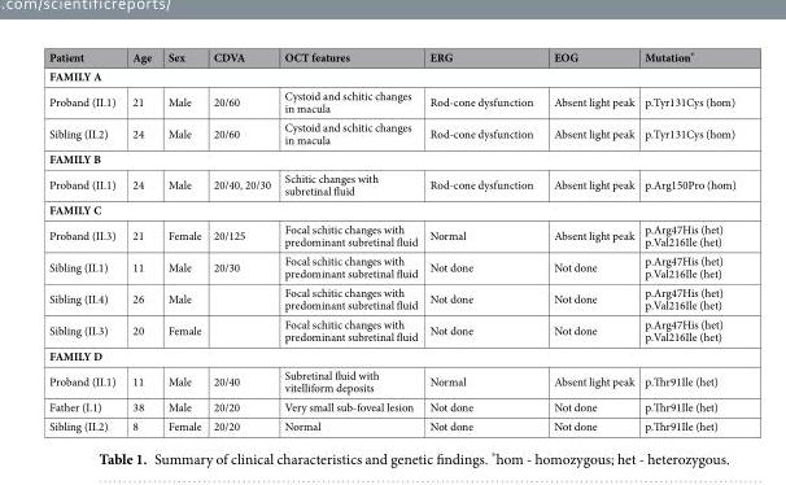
<table><thead><tr><td>Patient</td><td>Age</td><td>Sex</td><td>CDVA</td><td>OCT features</td><td>ERG</td><td>EOG</td><td>Mutation*</td></tr></thead><tbody><tr><td colspan="8">FAMILY A</td></tr><tr><td>Proband (II.1)</td><td>21</td><td>Male</td><td>20/60</td><td>Cystoid and schitic changes in macula</td><td>Rod-cone dysfunction</td><td>Absent light peak</td><td>p.Tyr131Cys (hom)</td></tr><tr><td>Sibling (II.2)</td><td>24</td><td>Male</td><td>20/60</td><td>Cystoid and schitic changes in macula</td><td>Rod-cone dysfunction</td><td>Absent light peak</td><td>p.Tyr131Cys (hom)</td></tr><tr><td colspan="8">FAMILY B</td></tr><tr><td>Proband (II.1)</td><td>24</td><td>Male</td><td>20/40, 20/30</td><td>Schitic changes with subretinal fluid</td><td>Rod-cone dysfunction</td><td>Absent light peak</td><td>p.Arg150Pro (hom)</td></tr><tr><td colspan="8">FAMILY C</td></tr><tr><td>Proband (II.3)</td><td>21</td><td>Female</td><td>20/125</td><td>Focal schitic changes with predominant subretinal fluid</td><td>Normal</td><td>Absent light peak</td><td>p.Arg47His (het) p.Val216Ile (het)</td></tr><tr><td>Sibling (II.1)</td><td>11</td><td>Male</td><td>20/30</td><td>Focal schitic changes with predominant subretinal fluid</td><td>Not done</td><td>Not done</td><td>p.Arg47His (het) p.Val216Ile (het)</td></tr><tr><td>Sibling (II.4)</td><td>26</td><td>Male</td><td></td><td>Focal schitic changes with predominant subretinal fluid</td><td>Not done</td><td>Not done</td><td>p.Arg47His (het) p.Val216Ile (het)</td></tr><tr><td>Sibling (II.3)</td><td>20</td><td>Female</td><td></td><td>Focal schitic changes with predominant subretinal fluid</td><td>Not done</td><td>Not done</td><td>p.Arg47His (het) p.Val216Ile (het)</td></tr><tr><td colspan="8">FAMILY D</td></tr><tr><td>Proband (II.1)</td><td>11</td><td>Male</td><td>20/40</td><td>Subretinal fluid with vitelliform deposits</td><td>Normal</td><td>Absent light peak</td><td>p.Thr91Ile (het)</td></tr><tr><td>Father (I.1)</td><td>38</td><td>Male</td><td>20/20</td><td>Very small sub-foveal lesion</td><td>Not done</td><td>Not done</td><td>p.Thr91Ile (het)</td></tr><tr><td>Sibling (II.2)</td><td>8</td><td>Female</td><td>20/20</td><td>Normal</td><td>Not done</td><td>Not done</td><td>p.Thr91Ile (het)</td></tr></tbody></table>